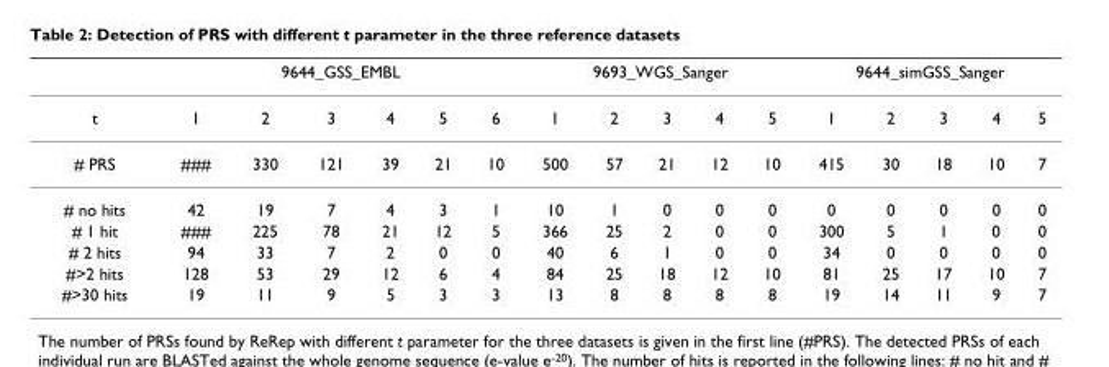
<table><thead><tr><td rowspan="2">t</td><td colspan="6">9644_GSS_EMBL</td><td colspan="5">9693_WGS_Sanger</td><td colspan="5">9644_simGSS_Sanger</td></tr><tr><td>1</td><td>2</td><td>3</td><td>4</td><td>5</td><td>6</td><td>1</td><td>2</td><td>3</td><td>4</td><td>5</td><td>1</td><td>2</td><td>3</td><td>4</td><td>5</td></tr></thead><tbody><tr><td># PRS</td><td>###</td><td>330</td><td>121</td><td>39</td><td>21</td><td>10</td><td>500</td><td>57</td><td>21</td><td>12</td><td>10</td><td>415</td><td>30</td><td>18</td><td>10</td><td>7</td></tr><tr><td># no hits</td><td>42</td><td>19</td><td>7</td><td>4</td><td>3</td><td>1</td><td>10</td><td>1</td><td>0</td><td>0</td><td>0</td><td>0</td><td>0</td><td>0</td><td>0</td><td>0</td></tr><tr><td># 1 hit</td><td>###</td><td>225</td><td>78</td><td>21</td><td>12</td><td>5</td><td>366</td><td>25</td><td>2</td><td>0</td><td>0</td><td>300</td><td>5</td><td>1</td><td>0</td><td>0</td></tr><tr><td># 2 hits</td><td>94</td><td>33</td><td>7</td><td>2</td><td>0</td><td>0</td><td>40</td><td>6</td><td>1</td><td>0</td><td>0</td><td>34</td><td>0</td><td>0</td><td>0</td><td>0</td></tr><tr><td>#&gt;2 hits</td><td>128</td><td>53</td><td>29</td><td>12</td><td>6</td><td>4</td><td>84</td><td>25</td><td>18</td><td>12</td><td>10</td><td>81</td><td>25</td><td>17</td><td>10</td><td>7</td></tr><tr><td>#&gt;30 hits</td><td>19</td><td>11</td><td>9</td><td>5</td><td>3</td><td>3</td><td>13</td><td>8</td><td>8</td><td>8</td><td>8</td><td>19</td><td>14</td><td>11</td><td>9</td><td>7</td></tr></tbody></table>